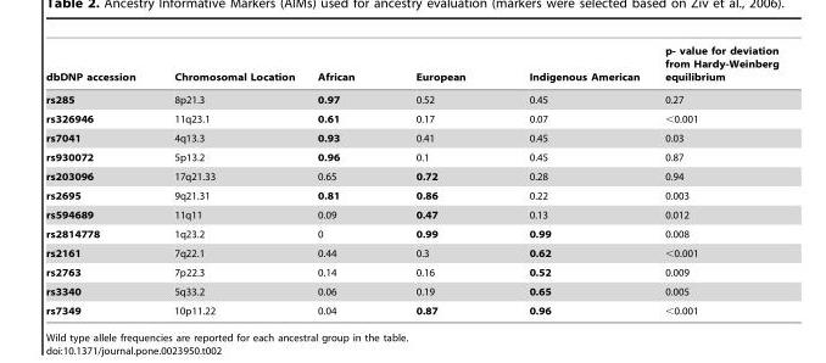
<table><thead><tr><td>dbDNP accession</td><td>Chromosomal Location</td><td>African</td><td>European</td><td>Indigenous American</td><td>p- value for deviation from Hardy-Weinberg equilibrium</td></tr></thead><tbody><tr><td>rs285</td><td>8p21.3</td><td>0.97</td><td>0.52</td><td>0.45</td><td>0.27</td></tr><tr><td>rs326946</td><td>11q23.1</td><td>0.61</td><td>0.17</td><td>0.07</td><td>&lt;0.001</td></tr><tr><td>rs7041</td><td>4q13.3</td><td>0.93</td><td>0.41</td><td>0.45</td><td>0.03</td></tr><tr><td>rs930072</td><td>5p13.2</td><td>0.96</td><td>0.1</td><td>0.45</td><td>0.87</td></tr><tr><td>rs203096</td><td>17q21.33</td><td>0.65</td><td>0.72</td><td>0.28</td><td>0.94</td></tr><tr><td>rs2695</td><td>9q21.31</td><td>0.81</td><td>0.86</td><td>0.22</td><td>0.003</td></tr><tr><td>rs594689</td><td>11q11</td><td>0.09</td><td>0.47</td><td>0.13</td><td>0.012</td></tr><tr><td>rs2814778</td><td>1q23.2</td><td>0</td><td>0.99</td><td>0.99</td><td>0.008</td></tr><tr><td>rs2161</td><td>7q22.1</td><td>0.44</td><td>0.3</td><td>0.62</td><td>&lt;0.001</td></tr><tr><td>rs2763</td><td>7p22.3</td><td>0.14</td><td>0.16</td><td>0.52</td><td>0.009</td></tr><tr><td>rs3340</td><td>5q33.2</td><td>0.06</td><td>0.19</td><td>0.65</td><td>0.005</td></tr><tr><td>rs7349</td><td>10p11.22</td><td>0.04</td><td>0.87</td><td>0.96</td><td>&lt;0.001</td></tr></tbody></table>